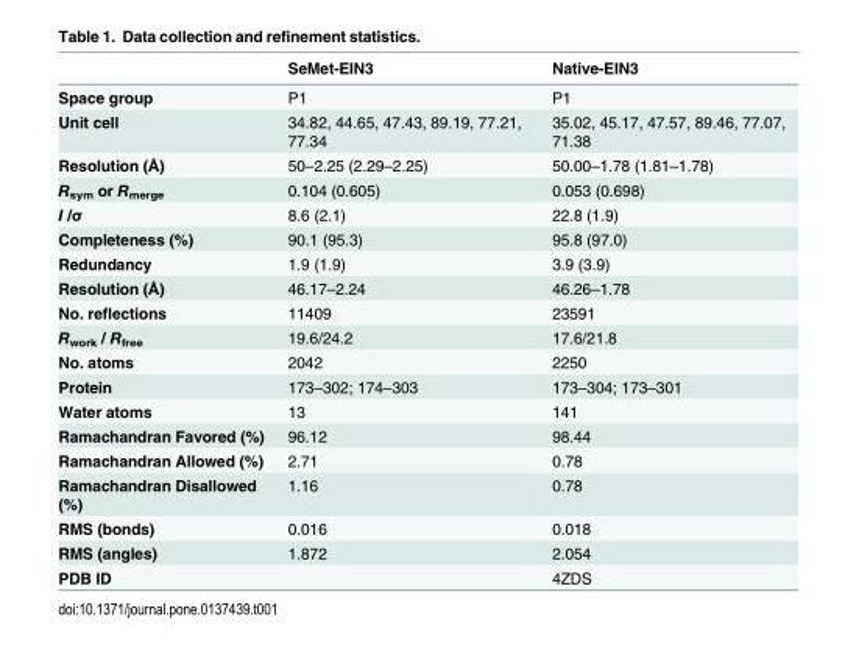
<table><thead><tr><td></td><td>SeMet-EIN3</td><td>Native-EIN3</td></tr></thead><tbody><tr><td>Space group</td><td>P1</td><td>P1</td></tr><tr><td>Unit cell</td><td>34.82, 44.65, 47.43, 89.19, 77.21, 77.34</td><td>35.02, 45.17, 47.57, 89.46, 77.07, 71.38</td></tr><tr><td>Resolution (Å)</td><td>50–2.25 (2.29–2.25)</td><td>50.00–1.78 (1.81–1.78)</td></tr><tr><td>R<sub>sym</sub> or R<sub>merge</sub></td><td>0.104 (0.605)</td><td>0.053 (0.698)</td></tr><tr><td>I /σ</td><td>8.6 (2.1)</td><td>22.8 (1.9)</td></tr><tr><td>Completeness (%)</td><td>90.1 (95.3)</td><td>95.8 (97.0)</td></tr><tr><td>Redundancy</td><td>1.9 (1.9)</td><td>3.9 (3.9)</td></tr><tr><td>Resolution (Å)</td><td>46.17–2.24</td><td>46.26–1.78</td></tr><tr><td>No. reflections</td><td>11409</td><td>23591</td></tr><tr><td>R<sub>work</sub> / R<sub>free</sub></td><td>19.6/24.2</td><td>17.6/21.8</td></tr><tr><td>No. atoms</td><td>2042</td><td>2250</td></tr><tr><td>Protein</td><td>173–302; 174–303</td><td>173–304; 173–301</td></tr><tr><td>Water atoms</td><td>13</td><td>141</td></tr><tr><td>Ramachandran Favored (%)</td><td>96.12</td><td>98.44</td></tr><tr><td>Ramachandran Allowed (%)</td><td>2.71</td><td>0.78</td></tr><tr><td>Ramachandran Disallowed (%)</td><td>1.16</td><td>0.78</td></tr><tr><td>RMS (bonds)</td><td>0.016</td><td>0.018</td></tr><tr><td>RMS (angles)</td><td>1.872</td><td>2.054</td></tr><tr><td>PDB ID</td><td></td><td>4ZDS</td></tr></tbody></table>